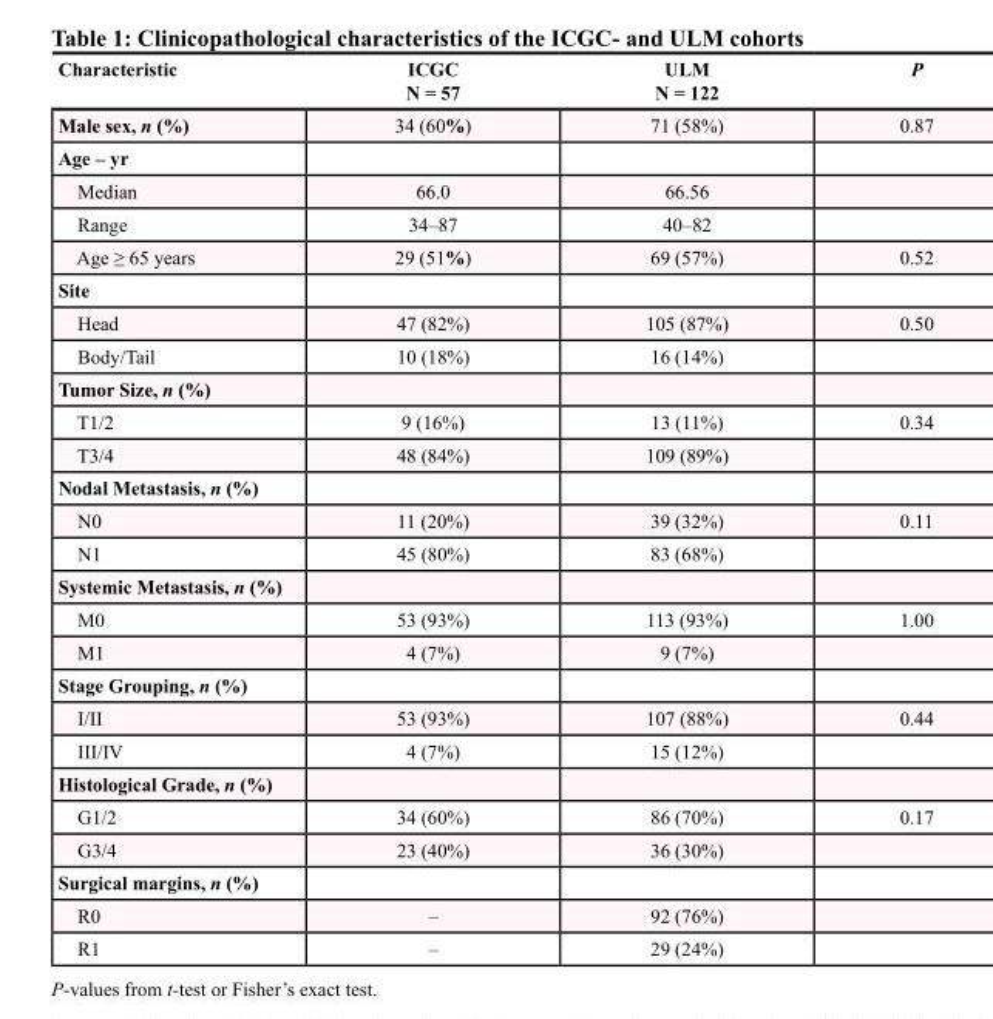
<table><thead><tr><td>Characteristic</td><td>ICGC N = 57</td><td>ULM N = 122</td><td>P</td></tr></thead><tbody><tr><td>Male sex, n (%)</td><td>34 (60%)</td><td>71 (58%)</td><td>0.87</td></tr><tr><td colspan="4">Age – yr</td></tr><tr><td>Median</td><td>66.0</td><td>66.56</td><td></td></tr><tr><td>Range</td><td>34–87</td><td>40–82</td><td></td></tr><tr><td>Age ≥ 65 years</td><td>29 (51%)</td><td>69 (57%)</td><td>0.52</td></tr><tr><td colspan="4">Site</td></tr><tr><td>Head</td><td>47 (82%)</td><td>105 (87%)</td><td>0.50</td></tr><tr><td>Body/Tail</td><td>10 (18%)</td><td>16 (14%)</td><td></td></tr><tr><td colspan="4">Tumor Size, n (%)</td></tr><tr><td>T1/2</td><td>9 (16%)</td><td>13 (11%)</td><td>0.34</td></tr><tr><td>T3/4</td><td>48 (84%)</td><td>109 (89%)</td><td></td></tr><tr><td colspan="4">Nodal Metastasis, n (%)</td></tr><tr><td>N0</td><td>11 (20%)</td><td>39 (32%)</td><td>0.11</td></tr><tr><td>N1</td><td>45 (80%)</td><td>83 (68%)</td><td></td></tr><tr><td colspan="4">Systemic Metastasis, n (%)</td></tr><tr><td>M0</td><td>53 (93%)</td><td>113 (93%)</td><td>1.00</td></tr><tr><td>M1</td><td>4 (7%)</td><td>9 (7%)</td><td></td></tr><tr><td colspan="4">Stage Grouping, n (%)</td></tr><tr><td>I/II</td><td>53 (93%)</td><td>107 (88%)</td><td>0.44</td></tr><tr><td>III/IV</td><td>4 (7%)</td><td>15 (12%)</td><td></td></tr><tr><td colspan="4">Histological Grade, n (%)</td></tr><tr><td>G1/2</td><td>34 (60%)</td><td>86 (70%)</td><td>0.17</td></tr><tr><td>G3/4</td><td>23 (40%)</td><td>36 (30%)</td><td></td></tr><tr><td colspan="4">Surgical margins, n (%)</td></tr><tr><td>R0</td><td>–</td><td>92 (76%)</td><td></td></tr><tr><td>R1</td><td>–</td><td>29 (24%)</td><td></td></tr></tbody></table>